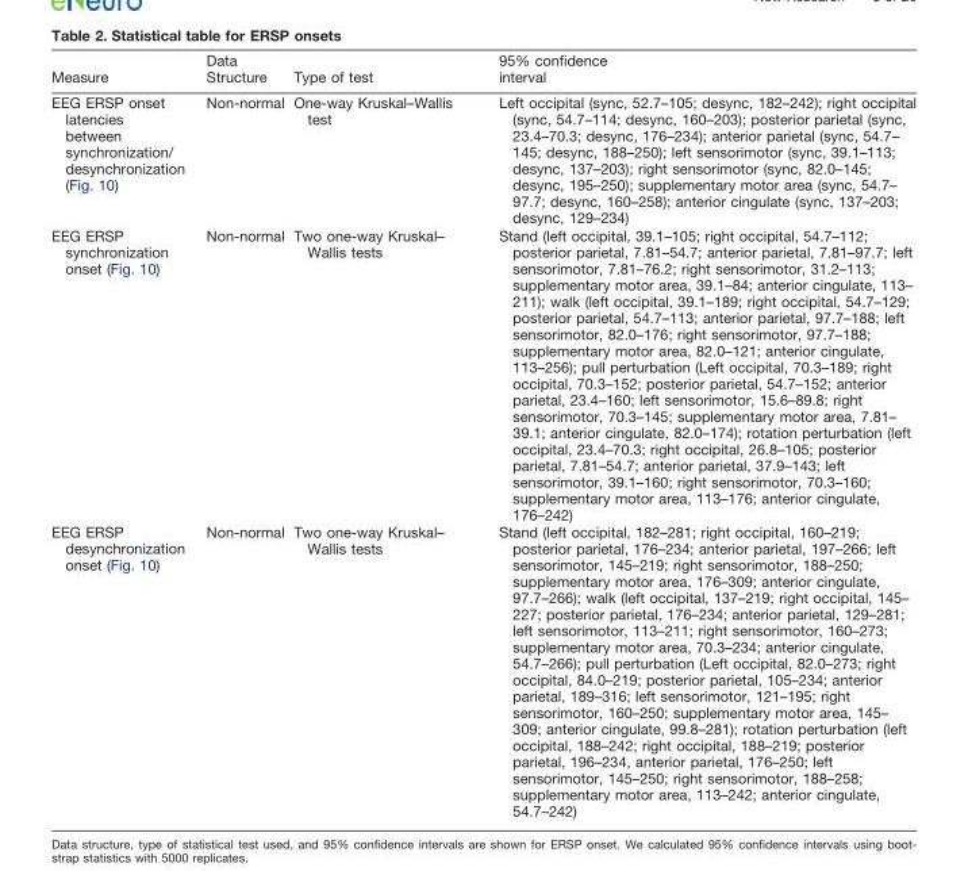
<table><thead><tr><td>Measure</td><td>Data Structure</td><td>Type of test</td><td>95% confidence interval</td></tr></thead><tbody><tr><td>EEG ERSP onset latencies between synchronization/ desynchronization (Fig. 10)</td><td>Non-normal</td><td>One-way Kruskal–Wallis test</td><td>Left occipital (sync, 52.7–105; desync, 182–242); right occipital (sync, 54.7–114; desync, 160–203); posterior parietal (sync, 23.4–70.3; desync, 176–234); anterior parietal (sync, 54.7– 145; desync, 188–250); left sensorimotor (sync, 39.1–113; desync, 137–203); right sensorimotor (sync, 82.0–145; desync, 195–250); supplementary motor area (sync, 54.7– 97.7; desync, 160–258); anterior cingulate (sync, 137–203; desync, 129–234)</td></tr><tr><td>EEG ERSP synchronization onset (Fig. 10)</td><td>Non-normal</td><td>Two one-way Kruskal– Wallis tests</td><td>Stand (left occipital, 39.1–105; right occipital, 54.7–112; posterior parietal, 7.81–54.7; anterior parietal, 7.81–97.7; left sensorimotor, 7.81–76.2; right sensorimotor, 31.2–113; supplementary motor area, 39.1–84; anterior cingulate, 113– 211); walk (left occipital, 39.1–189; right occipital, 54.7–129; posterior parietal, 54.7–113; anterior parietal, 97.7–188; left sensorimotor, 82.0–176; right sensorimotor, 97.7–188; supplementary motor area, 82.0–121; anterior cingulate, 113–256); pull perturbation (Left occipital, 70.3–189; right occipital, 70.3–152; posterior parietal, 54.7–152; anterior parietal, 23.4–160; left sensorimotor, 15.6–89.8; right sensorimotor, 70.3–145; supplementary motor area, 7.81– 39.1; anterior cingulate, 82.0–174); rotation perturbation (left occipital, 23.4–70.3; right occipital, 26.8–105; posterior parietal, 7.81–54.7; anterior parietal, 37.9–143; left sensorimotor, 39.1–160; right sensorimotor, 70.3–160; supplementary motor area, 113–176; anterior cingulate, 176–242)</td></tr><tr><td>EEG ERSP desynchronization onset (Fig. 10)</td><td>Non-normal</td><td>Two one-way Kruskal– Wallis tests</td><td>Stand (left occipital, 182–281; right occipital, 160–219; posterior parietal, 176–234; anterior parietal, 197–266; left sensorimotor, 145–219; right sensorimotor, 188–250; supplementary motor area, 176–309; anterior cingulate, 97.7–266); walk (left occipital, 137–219; right occipital, 145– 227; posterior parietal, 176–234; anterior parietal, 129–281; left sensorimotor, 113–211; right sensorimotor, 160–273; supplementary motor area, 70.3–234; anterior cingulate, 54.7–266); pull perturbation (Left occipital, 82.0–273; right occipital, 84.0–219; posterior parietal, 105–234; anterior parietal, 189–316; left sensorimotor, 121–195; right sensorimotor, 160–250; supplementary motor area, 145– 309; anterior cingulate, 99.8–281); rotation perturbation (left occipital, 188–242; right occipital, 188–219; posterior parietal, 196–234, anterior parietal, 176–250; left sensorimotor, 145–250; right sensorimotor, 188–258; supplementary motor area, 113–242; anterior cingulate, 54.7–242)</td></tr></tbody></table>